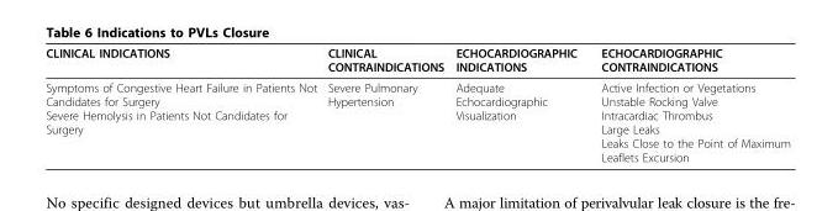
<table><thead><tr><td>CLINICAL INDICATIONS</td><td>CLINICAL CONTRAINDICATIONS</td><td>ECHOCARDIOGRAPHIC INDICATIONS</td><td>ECHOCARDIOGRAPHIC CONTRAINDICATIONS</td></tr></thead><tbody><tr><td>Symptoms of Congestive Heart Failure in Patients Not Candidates for Surgery Severe Hemolysis in Patients Not Candidates for Surgery</td><td>Severe Pulmonary Hypertension</td><td>Adequate Echocardiographic Visualization</td><td>Active Infection or Vegetations Unstable Rocking Valve Intracardiac Thrombus Large Leaks Leaks Close to the Point of Maximum Leaflets Excursion</td></tr></tbody></table>